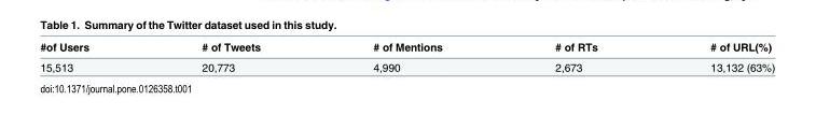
<table><thead><tr><td>#of Users</td><td># of Tweets</td><td># of Mentions</td><td># of RTs</td><td># of URL(%)</td></tr></thead><tbody><tr><td>15,513</td><td>20,773</td><td>4,990</td><td>2,673</td><td>13,132 (63%)</td></tr></tbody></table>